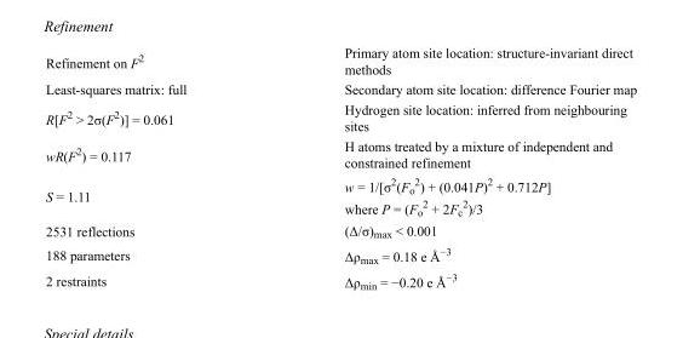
<table><tbody><tr><td>Refinement on F<sup>2</sup></td><td>Primary atom site location: structure-invariant direct methods</td></tr><tr><td>Least-squares matrix: full</td><td>Secondary atom site location: difference Fourier map</td></tr><tr><td>R[F<sup>2</sup> &gt; 2σ(F<sup>2</sup>)] = 0.061</td><td>Hydrogen site location: inferred from neighbouring sites</td></tr><tr><td>wR(F<sup>2</sup>) = 0.117</td><td>H atoms treated by a mixture of independent and constrained refinement</td></tr><tr><td>S = 1.11</td><td>w = 1/[σ<sup>2</sup>(F<sub>o</sub> <sup>2</sup>) + (0.041P)<sup>2</sup> + 0.712P] where P = (F<sub>o</sub> <sup>2</sup> + 2F<sub>c</sub> <sup>2</sup>)/3</td></tr><tr><td>2531 reflections</td><td>(Δ/σ)<sub>max</sub> &lt; 0.001</td></tr><tr><td>188 parameters</td><td>Δρ<sub>max</sub> = 0.18 e Å<sup>−3</sup></td></tr><tr><td>2 restraints</td><td>Δρ<sub>min</sub> = −0.20 e Å<sup>−3</sup></td></tr></tbody></table>